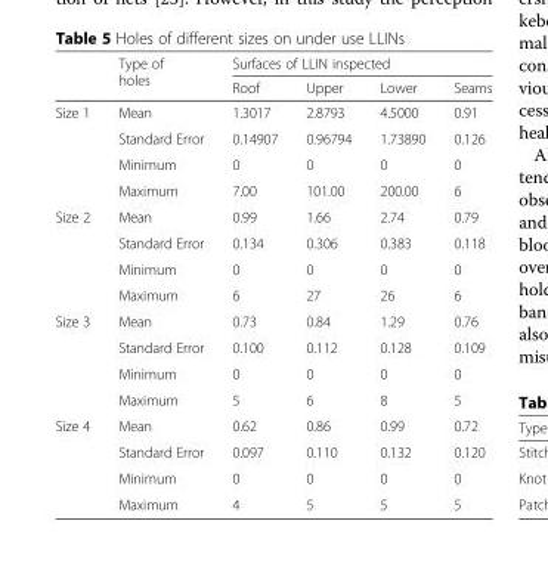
<table><thead><tr><td rowspan="2"></td><td rowspan="2">Type of holes</td><td colspan="4">Surfaces of LLIN inspected</td></tr><tr><td>Roof</td><td>Upper</td><td>Lower</td><td>Seams</td></tr></thead><tbody><tr><td rowspan="4">Size 1</td><td>Mean</td><td>1.3017</td><td>2.8793</td><td>4.5000</td><td>0.91</td></tr><tr><td>Standard Error</td><td>0.14907</td><td>0.96794</td><td>1.73890</td><td>0.126</td></tr><tr><td>Minimum</td><td>0</td><td>0</td><td>0</td><td>0</td></tr><tr><td>Maximum</td><td>7.00</td><td>101.00</td><td>200.00</td><td>6</td></tr><tr><td rowspan="4">Size 2</td><td>Mean</td><td>0.99</td><td>1.66</td><td>2.74</td><td>0.79</td></tr><tr><td>Standard Error</td><td>0.134</td><td>0.306</td><td>0.383</td><td>0.118</td></tr><tr><td>Minimum</td><td>0</td><td>0</td><td>0</td><td>0</td></tr><tr><td>Maximum</td><td>6</td><td>27</td><td>26</td><td>6</td></tr><tr><td rowspan="4">Size 3</td><td>Mean</td><td>0.73</td><td>0.84</td><td>1.29</td><td>0.76</td></tr><tr><td>Standard Error</td><td>0.100</td><td>0.112</td><td>0.128</td><td>0.109</td></tr><tr><td>Minimum</td><td>0</td><td>0</td><td>0</td><td>0</td></tr><tr><td>Maximum</td><td>5</td><td>6</td><td>8</td><td>5</td></tr><tr><td rowspan="4">Size 4</td><td>Mean</td><td>0.62</td><td>0.86</td><td>0.99</td><td>0.72</td></tr><tr><td>Standard Error</td><td>0.097</td><td>0.110</td><td>0.132</td><td>0.120</td></tr><tr><td>Minimum</td><td>0</td><td>0</td><td>0</td><td>0</td></tr><tr><td>Maximum</td><td>4</td><td>5</td><td>5</td><td>5</td></tr></tbody></table>